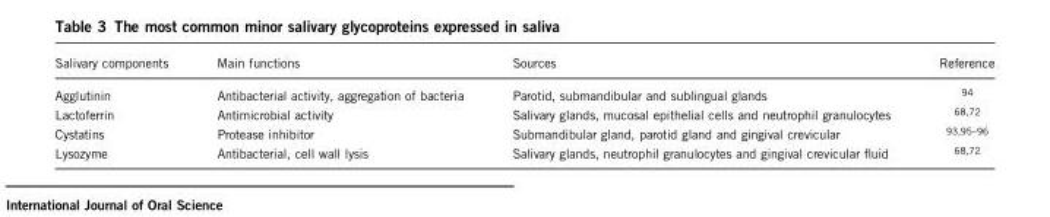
<table><thead><tr><td>Salivary components</td><td>Main functions</td><td>Sources</td><td>Reference</td></tr></thead><tbody><tr><td>Agglutinin</td><td>Antibacterial activity, aggregation of bacteria</td><td>Parotid, submandibular and sublingual glands</td><td><sup>94</sup></td></tr><tr><td>Lactoferrin</td><td>Antimicrobial activity</td><td>Salivary glands, mucosal epithelial cells and neutrophil granulocytes</td><td><sup>68,72</sup></td></tr><tr><td>Cystatins</td><td>Protease inhibitor</td><td>Submandibular gland, parotid gland and gingival crevicular</td><td>93,95–96</td></tr><tr><td>Lysozyme</td><td>Antibacterial, cell wall lysis</td><td>Salivary glands, neutrophil granulocytes and gingival crevicular fluid</td><td><sup>68,72</sup></td></tr></tbody></table>